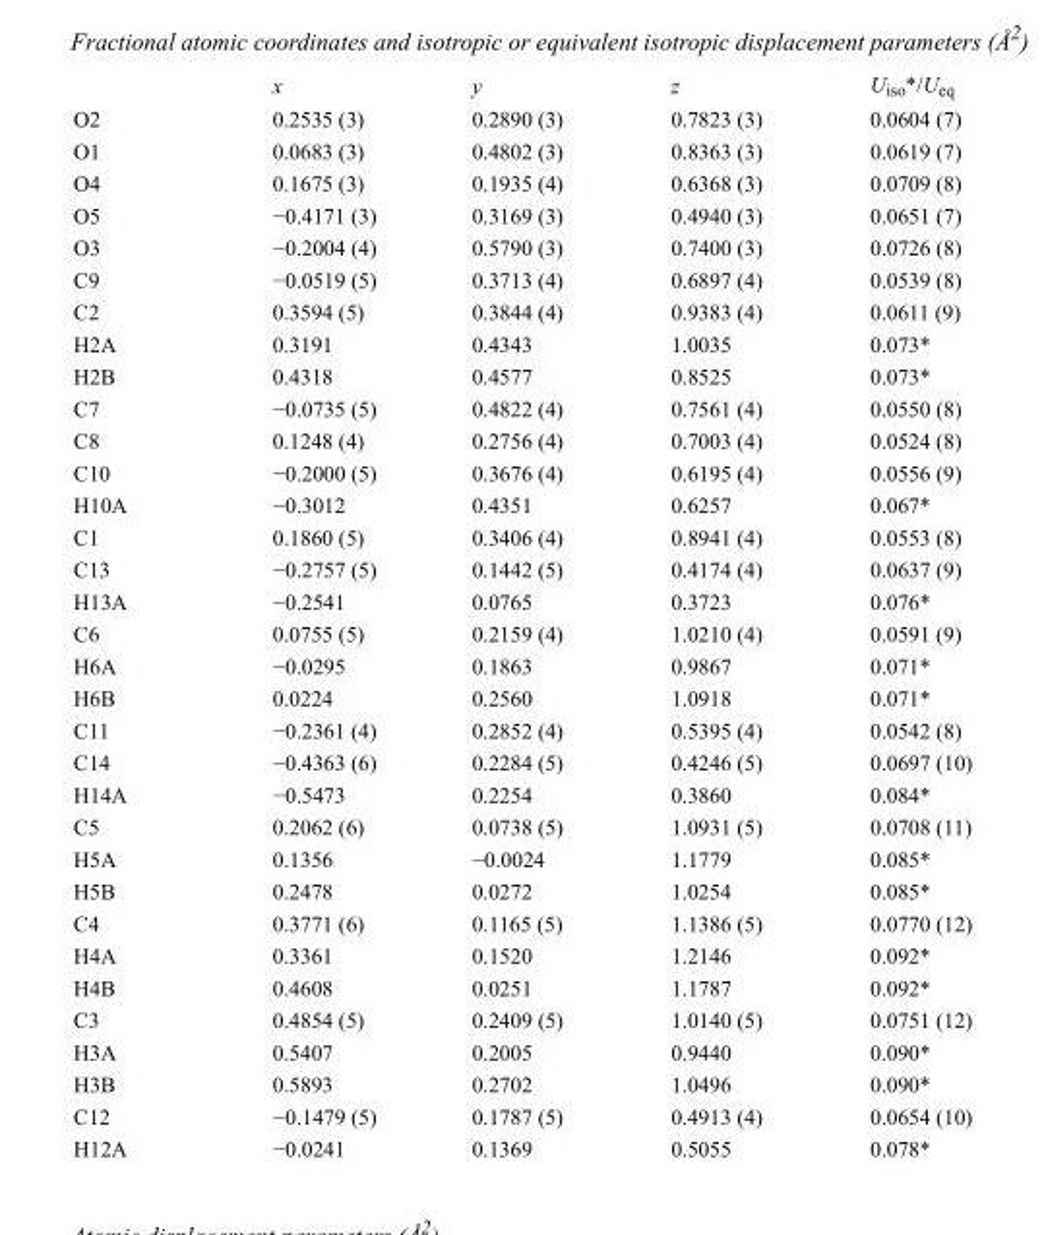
<table><thead><tr><td></td><td>x</td><td>y</td><td>z</td><td>U<sub>iso</sub>*/U<sub>eq</sub></td></tr></thead><tbody><tr><td>O2</td><td>0.2535 (3)</td><td>0.2890 (3)</td><td>0.7823 (3)</td><td>0.0604 (7)</td></tr><tr><td>O1</td><td>0.0683 (3)</td><td>0.4802 (3)</td><td>0.8363 (3)</td><td>0.0619 (7)</td></tr><tr><td>O4</td><td>0.1675 (3)</td><td>0.1935 (4)</td><td>0.6368 (3)</td><td>0.0709 (8)</td></tr><tr><td>O5</td><td>−0.4171 (3)</td><td>0.3169 (3)</td><td>0.4940 (3)</td><td>0.0651 (7)</td></tr><tr><td>O3</td><td>−0.2004 (4)</td><td>0.5790 (3)</td><td>0.7400 (3)</td><td>0.0726 (8)</td></tr><tr><td>C9</td><td>−0.0519 (5)</td><td>0.3713 (4)</td><td>0.6897 (4)</td><td>0.0539 (8)</td></tr><tr><td>C2</td><td>0.3594 (5)</td><td>0.3844 (4)</td><td>0.9383 (4)</td><td>0.0611 (9)</td></tr><tr><td>H2A</td><td>0.3191</td><td>0.4343</td><td>1.0035</td><td>0.073*</td></tr><tr><td>H2B</td><td>0.4318</td><td>0.4577</td><td>0.8525</td><td>0.073*</td></tr><tr><td>C7</td><td>−0.0735 (5)</td><td>0.4822 (4)</td><td>0.7561 (4)</td><td>0.0550 (8)</td></tr><tr><td>C8</td><td>0.1248 (4)</td><td>0.2756 (4)</td><td>0.7003 (4)</td><td>0.0524 (8)</td></tr><tr><td>C10</td><td>−0.2000 (5)</td><td>0.3676 (4)</td><td>0.6195 (4)</td><td>0.0556 (9)</td></tr><tr><td>H10A</td><td>−0.3012</td><td>0.4351</td><td>0.6257</td><td>0.067*</td></tr><tr><td>C1</td><td>0.1860 (5)</td><td>0.3406 (4)</td><td>0.8941 (4)</td><td>0.0553 (8)</td></tr><tr><td>C13</td><td>−0.2757 (5)</td><td>0.1442 (5)</td><td>0.4174 (4)</td><td>0.0637 (9)</td></tr><tr><td>H13A</td><td>−0.2541</td><td>0.0765</td><td>0.3723</td><td>0.076*</td></tr><tr><td>C6</td><td>0.0755 (5)</td><td>0.2159 (4)</td><td>1.0210 (4)</td><td>0.0591 (9)</td></tr><tr><td>H6A</td><td>−0.0295</td><td>0.1863</td><td>0.9867</td><td>0.071*</td></tr><tr><td>H6B</td><td>0.0224</td><td>0.2560</td><td>1.0918</td><td>0.071*</td></tr><tr><td>C11</td><td>−0.2361 (4)</td><td>0.2852 (4)</td><td>0.5395 (4)</td><td>0.0542 (8)</td></tr><tr><td>C14</td><td>−0.4363 (6)</td><td>0.2284 (5)</td><td>0.4246 (5)</td><td>0.0697 (10)</td></tr><tr><td>H14A</td><td>−0.5473</td><td>0.2254</td><td>0.3860</td><td>0.084*</td></tr><tr><td>C5</td><td>0.2062 (6)</td><td>0.0738 (5)</td><td>1.0931 (5)</td><td>0.0708 (11)</td></tr><tr><td>H5A</td><td>0.1356</td><td>−0.0024</td><td>1.1779</td><td>0.085*</td></tr><tr><td>H5B</td><td>0.2478</td><td>0.0272</td><td>1.0254</td><td>0.085*</td></tr><tr><td>C4</td><td>0.3771 (6)</td><td>0.1165 (5)</td><td>1.1386 (5)</td><td>0.0770 (12)</td></tr><tr><td>H4A</td><td>0.3361</td><td>0.1520</td><td>1.2146</td><td>0.092*</td></tr><tr><td>H4B</td><td>0.4608</td><td>0.0251</td><td>1.1787</td><td>0.092*</td></tr><tr><td>C3</td><td>0.4854 (5)</td><td>0.2409 (5)</td><td>1.0140 (5)</td><td>0.0751 (12)</td></tr><tr><td>H3A</td><td>0.5407</td><td>0.2005</td><td>0.9440</td><td>0.090*</td></tr><tr><td>H3B</td><td>0.5893</td><td>0.2702</td><td>1.0496</td><td>0.090*</td></tr><tr><td>C12</td><td>−0.1479 (5)</td><td>0.1787 (5)</td><td>0.4913 (4)</td><td>0.0654 (10)</td></tr><tr><td>H12A</td><td>−0.0241</td><td>0.1369</td><td>0.5055</td><td>0.078*</td></tr></tbody></table>